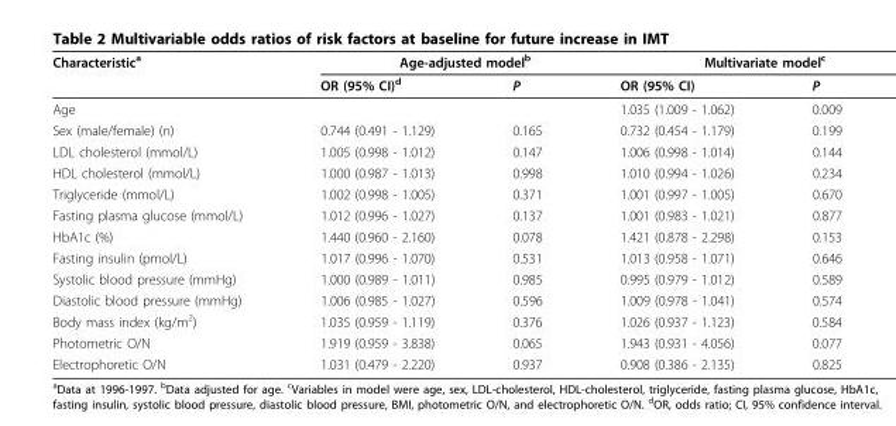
<table><thead><tr><td rowspan="2">Characteristic<sup>a</sup></td><td colspan="2">Age-adjusted model<sup>b</sup></td><td colspan="2">Multivariate model<sup>c</sup></td></tr><tr><td>OR (95% CI)<sup>d</sup></td><td>P</td><td>OR (95% CI)</td><td>P</td></tr></thead><tbody><tr><td>Age</td><td></td><td></td><td>1.035 (1.009 - 1.062)</td><td>0.009</td></tr><tr><td>Sex (male/female) (n)</td><td>0.744 (0.491 - 1.129)</td><td>0.165</td><td>0.732 (0.454 - 1.179)</td><td>0.199</td></tr><tr><td>LDL cholesterol (mmol/L)</td><td>1.005 (0.998 - 1.012)</td><td>0.147</td><td>1.006 (0.998 - 1.014)</td><td>0.144</td></tr><tr><td>HDL cholesterol (mmol/L)</td><td>1.000 (0.987 - 1.013)</td><td>0.998</td><td>1.010 (0.994 - 1.026)</td><td>0.234</td></tr><tr><td>Triglyceride (mmol/L)</td><td>1.002 (0.998 - 1.005)</td><td>0.371</td><td>1.001 (0.997 - 1.005)</td><td>0.670</td></tr><tr><td>Fasting plasma glucose (mmol/L)</td><td>1.012 (0.996 - 1.027)</td><td>0.137</td><td>1.001 (0.983 - 1.021)</td><td>0.877</td></tr><tr><td>HbA1c (%)</td><td>1.440 (0.960 - 2.160)</td><td>0.078</td><td>1.421 (0.878 - 2.298)</td><td>0.153</td></tr><tr><td>Fasting insulin (pmol/L)</td><td>1.017 (0.996 - 1.070)</td><td>0.531</td><td>1.013 (0.958 - 1.071)</td><td>0.646</td></tr><tr><td>Systolic blood pressure (mmHg)</td><td>1.000 (0.989 - 1.011)</td><td>0.985</td><td>0.995 (0.979 - 1.012)</td><td>0.589</td></tr><tr><td>Diastolic blood pressure (mmHg)</td><td>1.006 (0.985 - 1.027)</td><td>0.596</td><td>1.009 (0.978 - 1.041)</td><td>0.574</td></tr><tr><td>Body mass index (kg/m<sup>2</sup>)</td><td>1.035 (0.959 - 1.119)</td><td>0.376</td><td>1.026 (0.937 - 1.123)</td><td>0.584</td></tr><tr><td>Photometric O/N</td><td>1.919 (0.959 - 3.838)</td><td>0.065</td><td>1.943 (0.931 - 4.056)</td><td>0.077</td></tr><tr><td>Electrophoretic O/N</td><td>1.031 (0.479 - 2.220)</td><td>0.937</td><td>0.908 (0.386 - 2.135)</td><td>0.825</td></tr></tbody></table>